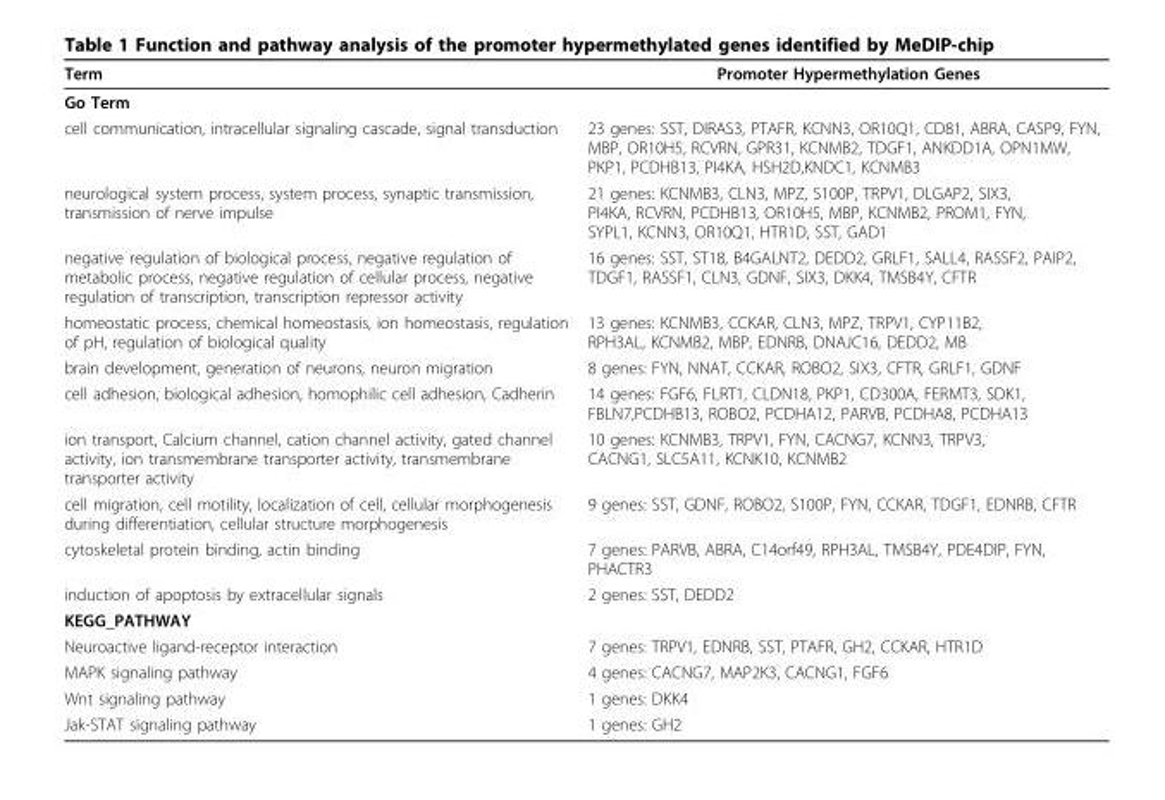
<table><thead><tr><td>Term</td><td>Promoter Hypermethylation Genes</td></tr></thead><tbody><tr><td colspan="2">Go Term</td></tr><tr><td>cell communication, intracellular signaling cascade, signal transduction</td><td>23 genes: SST, DIRAS3, PTAFR, KCNN3, OR10Q1, CD81, ABRA, CASP9, FYN, MBP, OR10H5, RCVRN, GPR31, KCNMB2, TDGF1, ANKDD1A, OPN1MW, PKP1, PCDHB13, PI4KA, HSH2D,KNDC1, KCNMB3</td></tr><tr><td>neurological system process, system process, synaptic transmission, transmission of nerve impulse</td><td>21 genes: KCNMB3, CLN3, MPZ, S100P, TRPV1, DLGAP2, SIX3, PI4KA, RCVRN, PCDHB13, OR10H5, MBP, KCNMB2, PROM1, FYN, SYPL1, KCNN3, OR10Q1, HTR1D, SST, GAD1</td></tr><tr><td>negative regulation of biological process, negative regulation of metabolic process, negative regulation of cellular process, negative regulation of transcription, transcription repressor activity</td><td>16 genes: SST, ST18, B4GALNT2, DEDD2, GRLF1, SALL4, RASSF2, PAIP2, TDGF1, RASSF1, CLN3, GDNF, SIX3, DKK4, TMSB4Y, CFTR</td></tr><tr><td>homeostatic process, chemical homeostasis, ion homeostasis, regulation of pH, regulation of biological quality</td><td>13 genes: KCNMB3, CCKAR, CLN3, MPZ, TRPV1, CYP11B2, RPH3AL, KCNMB2, MBP, EDNRB, DNAJC16, DEDD2, MB</td></tr><tr><td>brain development, generation of neurons, neuron migration</td><td>8 genes: FYN, NNAT, CCKAR, ROBO2, SIX3, CFTR, GRLF1, GDNF</td></tr><tr><td>cell adhesion, biological adhesion, homophilic cell adhesion, Cadherin</td><td>14 genes: FGF6, FLRT1, CLDN18, PKP1, CD300A, FERMT3, SDK1, FBLN7,PCDHB13, ROBO2, PCDHA12, PARVB, PCDHA8, PCDHA13</td></tr><tr><td>ion transport, Calcium channel, cation channel activity, gated channel activity, ion transmembrane transporter activity, transmembrane transporter activity</td><td>10 genes: KCNMB3, TRPV1, FYN, CACNG7, KCNN3, TRPV3, CACNG1, SLC5A11, KCNK10, KCNMB2</td></tr><tr><td>cell migration, cell motility, localization of cell, cellular morphogenesis during differentiation, cellular structure morphogenesis</td><td>9 genes: SST, GDNF, ROBO2, S100P, FYN, CCKAR, TDGF1, EDNRB, CFTR</td></tr><tr><td>cytoskeletal protein binding, actin binding</td><td>7 genes: PARVB, ABRA, C14orf49, RPH3AL, TMSB4Y, PDE4DIP, FYN, PHACTR3</td></tr><tr><td>induction of apoptosis by extracellular signals</td><td>2 genes: SST, DEDD2</td></tr><tr><td colspan="2">KEGG_PATHWAY</td></tr><tr><td>Neuroactive ligand-receptor interaction</td><td>7 genes: TRPV1, EDNRB, SST, PTAFR, GH2, CCKAR, HTR1D</td></tr><tr><td>MAPK signaling pathway</td><td>4 genes: CACNG7, MAP2K3, CACNG1, FGF6</td></tr><tr><td>Wnt signaling pathway</td><td>1 genes: DKK4</td></tr><tr><td>Jak-STAT signaling pathway</td><td>1 genes: GH2</td></tr></tbody></table>